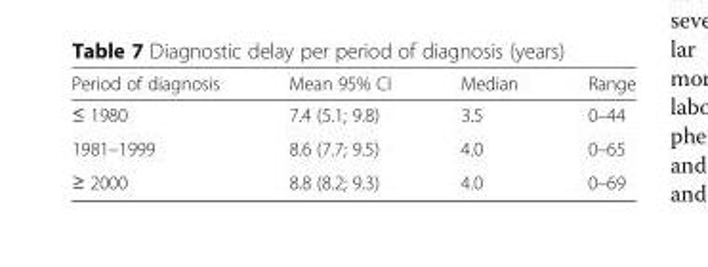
<table><thead><tr><td>Period of diagnosis</td><td>Mean 95% CI</td><td>Median</td><td>Range</td></tr></thead><tbody><tr><td>≤ 1980</td><td>7.4 (5.1; 9.8)</td><td>3.5</td><td>0–44</td></tr><tr><td>1981–1999</td><td>8.6 (7.7; 9.5)</td><td>4.0</td><td>0–65</td></tr><tr><td>≥ 2000</td><td>8.8 (8.2; 9.3)</td><td>4.0</td><td>0–69</td></tr></tbody></table>